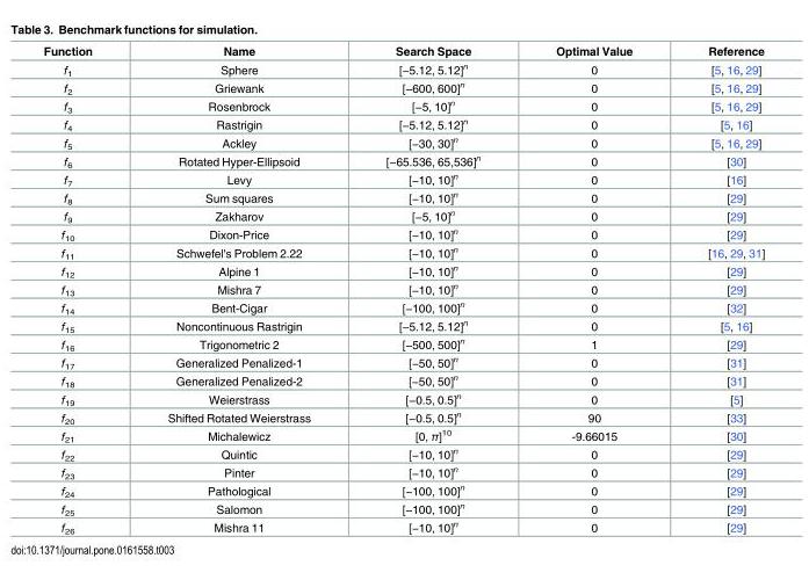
<table><thead><tr><td>Function</td><td>Name</td><td>Search Space</td><td>Optimal Value</td><td>Reference</td></tr></thead><tbody><tr><td>f<sub>1</sub></td><td>Sphere</td><td>[−5.12, 5.12]<sup>n</sup></td><td>0</td><td>[5, 16, 29]</td></tr><tr><td>f<sub>2</sub></td><td>Griewank</td><td>[−600, 600]<sup>n</sup></td><td>0</td><td>[5, 16, 29]</td></tr><tr><td>f<sub>3</sub></td><td>Rosenbrock</td><td>[−5, 10]<sup>n</sup></td><td>0</td><td>[5, 16, 29]</td></tr><tr><td>f<sub>4</sub></td><td>Rastrigin</td><td>[−5.12, 5.12]<sup>n</sup></td><td>0</td><td>[5, 16]</td></tr><tr><td>f<sub>5</sub></td><td>Ackley</td><td>[−30, 30]<sup>n</sup></td><td>0</td><td>[5, 16, 29]</td></tr><tr><td>f<sub>6</sub></td><td>Rotated Hyper-Ellipsoid</td><td>[−65.536, 65,536]<sup>n</sup></td><td>0</td><td>[30]</td></tr><tr><td>f<sub>7</sub></td><td>Levy</td><td>[−10, 10]<sup>n</sup></td><td>0</td><td>[16]</td></tr><tr><td>f<sub>8</sub></td><td>Sum squares</td><td>[−10, 10]<sup>n</sup></td><td>0</td><td>[29]</td></tr><tr><td>f<sub>9</sub></td><td>Zakharov</td><td>[−5, 10]<sup>n</sup></td><td>0</td><td>[29]</td></tr><tr><td>f<sub>10</sub></td><td>Dixon-Price</td><td>[−10, 10]<sup>n</sup></td><td>0</td><td>[29]</td></tr><tr><td>f<sub>11</sub></td><td>Schwefel&#x27;s Problem 2.22</td><td>[−10, 10]<sup>n</sup></td><td>0</td><td>[16, 29, 31]</td></tr><tr><td>f<sub>12</sub></td><td>Alpine 1</td><td>[−10, 10]<sup>n</sup></td><td>0</td><td>[29]</td></tr><tr><td>f<sub>13</sub></td><td>Mishra 7</td><td>[−10, 10]<sup>n</sup></td><td>0</td><td>[29]</td></tr><tr><td>f<sub>14</sub></td><td>Bent-Cigar</td><td>[−100, 100]<sup>n</sup></td><td>0</td><td>[32]</td></tr><tr><td>f<sub>15</sub></td><td>Noncontinuous Rastrigin</td><td>[−5.12, 5.12]<sup>n</sup></td><td>0</td><td>[5, 16]</td></tr><tr><td>f<sub>16</sub></td><td>Trigonometric 2</td><td>[−500, 500]<sup>n</sup></td><td>1</td><td>[29]</td></tr><tr><td>f<sub>17</sub></td><td>Generalized Penalized-1</td><td>[−50, 50]<sup>n</sup></td><td>0</td><td>[31]</td></tr><tr><td>f<sub>18</sub></td><td>Generalized Penalized-2</td><td>[−50, 50]<sup>n</sup></td><td>0</td><td>[31]</td></tr><tr><td>f<sub>19</sub></td><td>Weierstrass</td><td>[−0.5, 0.5]<sup>n</sup></td><td>0</td><td>[5]</td></tr><tr><td>f<sub>20</sub></td><td>Shifted Rotated Weierstrass</td><td>[−0.5, 0.5]<sup>n</sup></td><td>90</td><td>[33]</td></tr><tr><td>f<sub>21</sub></td><td>Michalewicz</td><td>[0, π]<sup>10</sup></td><td>-9.66015</td><td>[30]</td></tr><tr><td>f<sub>22</sub></td><td>Quintic</td><td>[−10, 10]<sup>n</sup></td><td>0</td><td>[29]</td></tr><tr><td>f<sub>23</sub></td><td>Pinter</td><td>[−10, 10]<sup>n</sup></td><td>0</td><td>[29]</td></tr><tr><td>f<sub>24</sub></td><td>Pathological</td><td>[−100, 100]<sup>n</sup></td><td>0</td><td>[29]</td></tr><tr><td>f<sub>25</sub></td><td>Salomon</td><td>[−100, 100]<sup>n</sup></td><td>0</td><td>[29]</td></tr><tr><td>f<sub>26</sub></td><td>Mishra 11</td><td>[−10, 10]<sup>n</sup></td><td>0</td><td>[29]</td></tr></tbody></table>